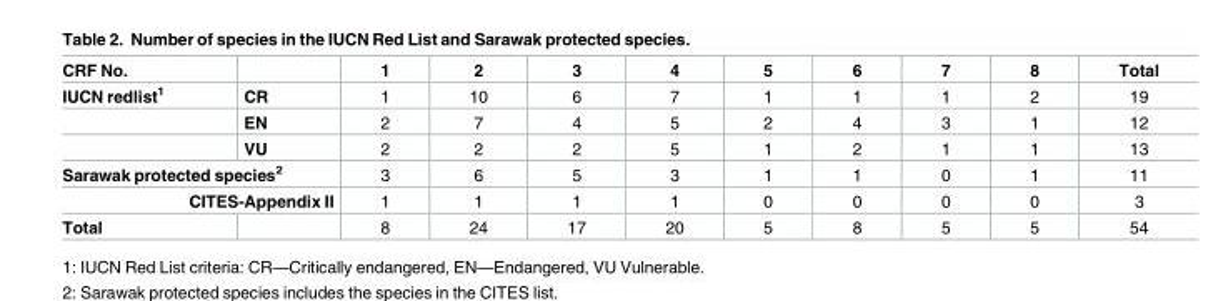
<table><thead><tr><td>CRF No.</td><td></td><td>1</td><td>2</td><td>3</td><td>4</td><td>5</td><td>6</td><td>7</td><td>8</td><td>Total</td></tr></thead><tbody><tr><td rowspan="3">IUCN redlist<sup>1</sup></td><td>CR</td><td>1</td><td>10</td><td>6</td><td>7</td><td>1</td><td>1</td><td>1</td><td>2</td><td>19</td></tr><tr><td>EN</td><td>2</td><td>7</td><td>4</td><td>5</td><td>2</td><td>4</td><td>3</td><td>1</td><td>12</td></tr><tr><td>VU</td><td>2</td><td>2</td><td>2</td><td>5</td><td>1</td><td>2</td><td>1</td><td>1</td><td>13</td></tr><tr><td colspan="2">Sarawak protected species<sup>2</sup></td><td>3</td><td>6</td><td>5</td><td>3</td><td>1</td><td>1</td><td>0</td><td>1</td><td>11</td></tr><tr><td colspan="2">CITES-Appendix II</td><td>1</td><td>1</td><td>1</td><td>1</td><td>0</td><td>0</td><td>0</td><td>0</td><td>3</td></tr><tr><td>Total</td><td></td><td>8</td><td>24</td><td>17</td><td>20</td><td>5</td><td>8</td><td>5</td><td>5</td><td>54</td></tr></tbody></table>